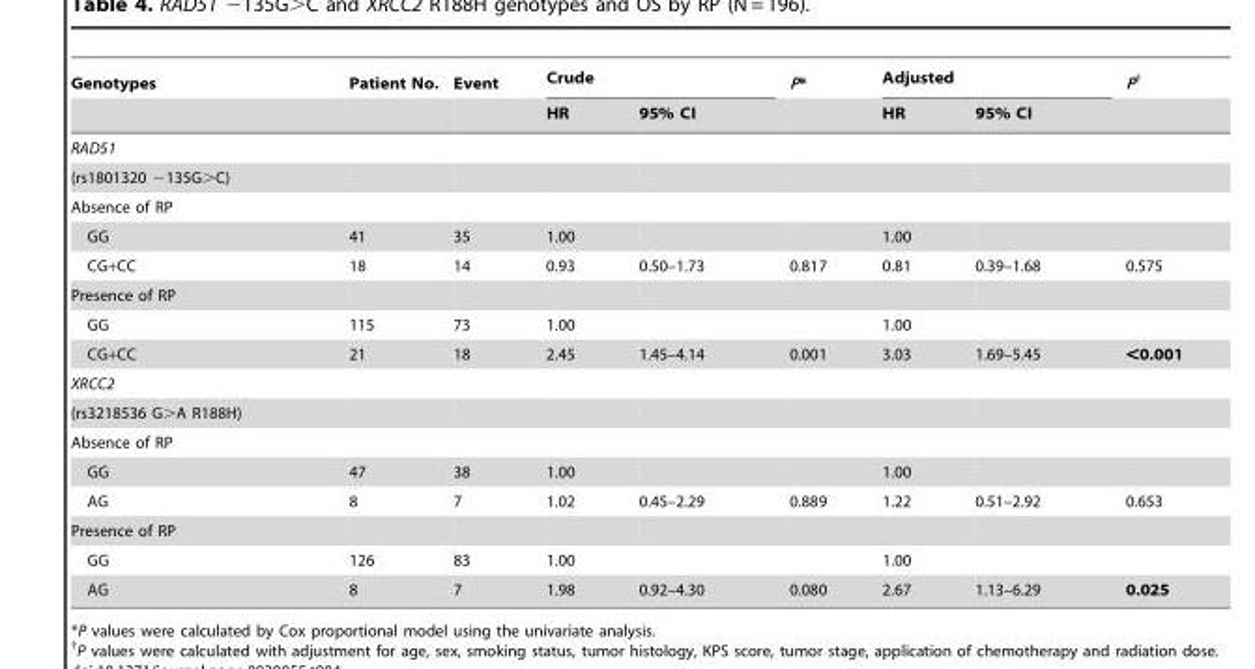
<table><thead><tr><td rowspan="2">Genotypes</td><td rowspan="2">Patient No.</td><td rowspan="2">Event</td><td colspan="2">Crude</td><td rowspan="2">P*</td><td colspan="2">Adjusted</td><td rowspan="2">P†</td></tr><tr><td>HR</td><td>95% CI</td><td>HR</td><td>95% CI</td></tr></thead><tbody><tr><td colspan="9">RAD51</td></tr><tr><td colspan="9">(rs1801320 −135G&gt;C)</td></tr><tr><td colspan="9">Absence of RP</td></tr><tr><td>GG</td><td>41</td><td>35</td><td>1.00</td><td></td><td></td><td>1.00</td><td></td><td></td></tr><tr><td>CG+CC</td><td>18</td><td>14</td><td>0.93</td><td>0.50–1.73</td><td>0.817</td><td>0.81</td><td>0.39–1.68</td><td>0.575</td></tr><tr><td colspan="9">Presence of RP</td></tr><tr><td>GG</td><td>115</td><td>73</td><td>1.00</td><td></td><td></td><td>1.00</td><td></td><td></td></tr><tr><td>CG+CC</td><td>21</td><td>18</td><td>2.45</td><td>1.45–4.14</td><td>0.001</td><td>3.03</td><td>1.69–5.45</td><td>&lt;0.001</td></tr><tr><td colspan="9">XRCC2</td></tr><tr><td colspan="9">(rs3218536 G&gt;A R188H)</td></tr><tr><td colspan="9">Absence of RP</td></tr><tr><td>GG</td><td>47</td><td>38</td><td>1.00</td><td></td><td></td><td>1.00</td><td></td><td></td></tr><tr><td>AG</td><td>8</td><td>7</td><td>1.02</td><td>0.45–2.29</td><td>0.889</td><td>1.22</td><td>0.51–2.92</td><td>0.653</td></tr><tr><td colspan="9">Presence of RP</td></tr><tr><td>GG</td><td>126</td><td>83</td><td>1.00</td><td></td><td></td><td>1.00</td><td></td><td></td></tr><tr><td>AG</td><td>8</td><td>7</td><td>1.98</td><td>0.92–4.30</td><td>0.080</td><td>2.67</td><td>1.13–6.29</td><td>0.025</td></tr></tbody></table>